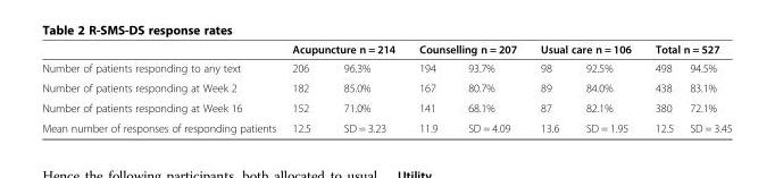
<table><thead><tr><td rowspan="2">Number of patients responding to any text</td><td colspan="2">Acupuncture n = 214</td><td colspan="2">Counselling n = 207</td><td colspan="2">Usual care n = 106</td><td colspan="2">Total n = 527</td></tr><tr><td>206</td><td>96.3%</td><td>194</td><td>93.7%</td><td>98</td><td>92.5%</td><td>498</td><td>94.5%</td></tr></thead><tbody><tr><td>Number of patients responding at Week 2</td><td>182</td><td>85.0%</td><td>167</td><td>80.7%</td><td>89</td><td>84.0%</td><td>438</td><td>83.1%</td></tr><tr><td>Number of patients responding at Week 16</td><td>152</td><td>71.0%</td><td>141</td><td>68.1%</td><td>87</td><td>82.1%</td><td>380</td><td>72.1%</td></tr><tr><td>Mean number of responses of responding patients</td><td>12.5</td><td>SD = 3.23</td><td>11.9</td><td>SD = 4.09</td><td>13.6</td><td>SD = 1.95</td><td>12.5</td><td>SD = 3.45</td></tr></tbody></table>